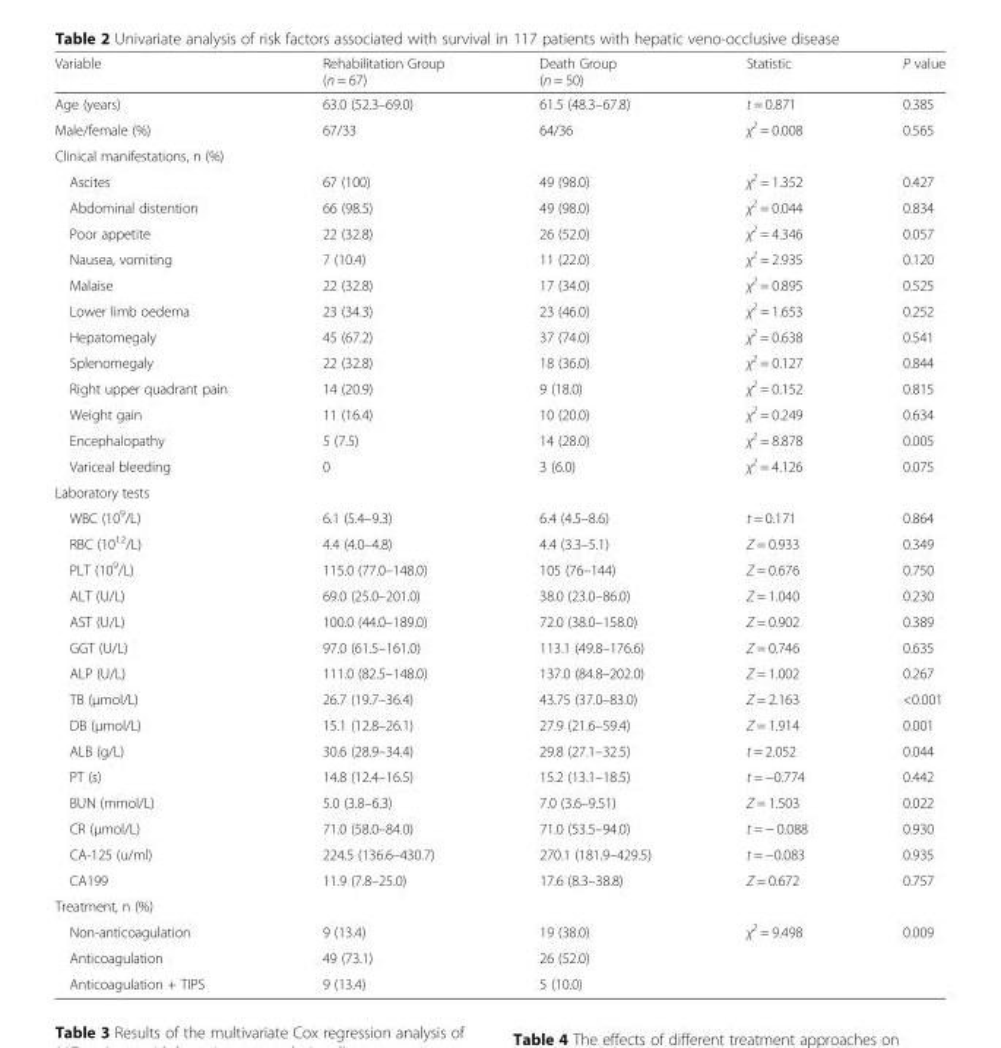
<table><thead><tr><td>Variable</td><td>Rehabilitation Group (n = 67)</td><td>Death Group (n = 50)</td><td>Statistic</td><td>P value</td></tr></thead><tbody><tr><td>Age (years)</td><td>63.0 (52.3–69.0)</td><td>61.5 (48.3–67.8)</td><td>t = 0.871</td><td>0.385</td></tr><tr><td>Male/female (%)</td><td>67/33</td><td>64/36</td><td>χ<sup>2</sup> = 0.008</td><td>0.565</td></tr><tr><td colspan="5">Clinical manifestations, n (%)</td></tr><tr><td>Ascites</td><td>67 (100)</td><td>49 (98.0)</td><td>χ<sup>2</sup> = 1.352</td><td>0.427</td></tr><tr><td>Abdominal distention</td><td>66 (98.5)</td><td>49 (98.0)</td><td>χ<sup>2</sup> = 0.044</td><td>0.834</td></tr><tr><td>Poor appetite</td><td>22 (32.8)</td><td>26 (52.0)</td><td>χ<sup>2</sup> = 4.346</td><td>0.057</td></tr><tr><td>Nausea, vomiting</td><td>7 (10.4)</td><td>11 (22.0)</td><td>χ<sup>2</sup> = 2.935</td><td>0.120</td></tr><tr><td>Malaise</td><td>22 (32.8)</td><td>17 (34.0)</td><td>χ<sup>2</sup> = 0.895</td><td>0.525</td></tr><tr><td>Lower limb oedema</td><td>23 (34.3)</td><td>23 (46.0)</td><td>χ<sup>2</sup> = 1.653</td><td>0.252</td></tr><tr><td>Hepatomegaly</td><td>45 (67.2)</td><td>37 (74.0)</td><td>χ<sup>2</sup> = 0.638</td><td>0.541</td></tr><tr><td>Splenomegaly</td><td>22 (32.8)</td><td>18 (36.0)</td><td>χ<sup>2</sup> = 0.127</td><td>0.844</td></tr><tr><td>Right upper quadrant pain</td><td>14 (20.9)</td><td>9 (18.0)</td><td>χ<sup>2</sup> = 0.152</td><td>0.815</td></tr><tr><td>Weight gain</td><td>11 (16.4)</td><td>10 (20.0)</td><td>χ<sup>2</sup> = 0.249</td><td>0.634</td></tr><tr><td>Encephalopathy</td><td>5 (7.5)</td><td>14 (28.0)</td><td>χ<sup>2</sup> = 8.878</td><td>0.005</td></tr><tr><td>Variceal bleeding</td><td>0</td><td>3 (6.0)</td><td>χ<sup>2</sup> = 4.126</td><td>0.075</td></tr><tr><td colspan="5">Laboratory tests</td></tr><tr><td>WBC (10<sup>9</sup>/L)</td><td>6.1 (5.4–9.3)</td><td>6.4 (4.5–8.6)</td><td>t = 0.171</td><td>0.864</td></tr><tr><td>RBC (10<sup>12</sup>/L)</td><td>4.4 (4.0–4.8)</td><td>4.4 (3.3–5.1)</td><td>Z = 0.933</td><td>0.349</td></tr><tr><td>PLT (10<sup>9</sup>/L)</td><td>115.0 (77.0–148.0)</td><td>105 (76–144)</td><td>Z = 0.676</td><td>0.750</td></tr><tr><td>ALT (U/L)</td><td>69.0 (25.0–201.0)</td><td>38.0 (23.0–86.0)</td><td>Z = 1.040</td><td>0.230</td></tr><tr><td>AST (U/L)</td><td>100.0 (44.0–189.0)</td><td>72.0 (38.0–158.0)</td><td>Z = 0.902</td><td>0.389</td></tr><tr><td>GGT (U/L)</td><td>97.0 (61.5–161.0)</td><td>113.1 (49.8–176.6)</td><td>Z = 0.746</td><td>0.635</td></tr><tr><td>ALP (U/L)</td><td>111.0 (82.5–148.0)</td><td>137.0 (84.8–202.0)</td><td>Z = 1.002</td><td>0.267</td></tr><tr><td>TB (μmol/L)</td><td>26.7 (19.7–36.4)</td><td>43.75 (37.0–83.0)</td><td>Z = 2.163</td><td>&lt;0.001</td></tr><tr><td>DB (μmol/L)</td><td>15.1 (12.8–26.1)</td><td>27.9 (21.6–59.4)</td><td>Z = 1.914</td><td>0.001</td></tr><tr><td>ALB (g/L)</td><td>30.6 (28.9–34.4)</td><td>29.8 (27.1–32.5)</td><td>t = 2.052</td><td>0.044</td></tr><tr><td>PT (s)</td><td>14.8 (12.4–16.5)</td><td>15.2 (13.1–18.5)</td><td>t = −0.774</td><td>0.442</td></tr><tr><td>BUN (mmol/L)</td><td>5.0 (3.8–6.3)</td><td>7.0 (3.6–9.51)</td><td>Z = 1.503</td><td>0.022</td></tr><tr><td>CR (μmol/L)</td><td>71.0 (58.0–84.0)</td><td>71.0 (53.5–94.0)</td><td>t = − 0.088</td><td>0.930</td></tr><tr><td>CA-125 (u/ml)</td><td>224.5 (136.6–430.7)</td><td>270.1 (181.9–429.5)</td><td>t = −0.083</td><td>0.935</td></tr><tr><td>CA199</td><td>11.9 (7.8–25.0)</td><td>17.6 (8.3–38.8)</td><td>Z = 0.672</td><td>0.757</td></tr><tr><td colspan="5">Treatment, n (%)</td></tr><tr><td>Non-anticoagulation</td><td>9 (13.4)</td><td>19 (38.0)</td><td>χ<sup>2</sup> = 9.498</td><td>0.009</td></tr><tr><td>Anticoagulation</td><td>49 (73.1)</td><td>26 (52.0)</td><td></td><td></td></tr><tr><td>Anticoagulation + TIPS</td><td>9 (13.4)</td><td>5 (10.0)</td><td></td><td></td></tr></tbody></table>